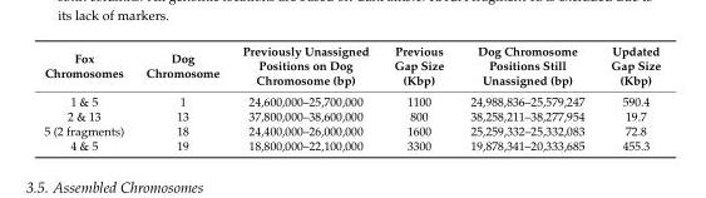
<table><thead><tr><td>Fox Chromosomes</td><td>Dog Chromosome</td><td>Previously Unassigned Positions on Dog Chromosome (bp)</td><td>Previous Gap Size (Kbp)</td><td>Dog Chromosome Positions Still Unassigned (bp)</td><td>Updated Gap Size (Kbp)</td></tr></thead><tbody><tr><td>1 &amp; 5</td><td>1</td><td>24,600,000–25,700,000</td><td>1100</td><td>24,988,836–25,579,247</td><td>590.4</td></tr><tr><td>2 &amp; 13</td><td>13</td><td>37,800,000–38,600,000</td><td>800</td><td>38,258,211–38,277,954</td><td>19.7</td></tr><tr><td>5 (2 fragments)</td><td>18</td><td>24,400,000–26,000,000</td><td>1600</td><td>25,259,332–25,332,083</td><td>72.8</td></tr><tr><td>4 &amp; 5</td><td>19</td><td>18,800,000–22,100,000</td><td>3300</td><td>19,878,341–20,333,685</td><td>455.3</td></tr></tbody></table>